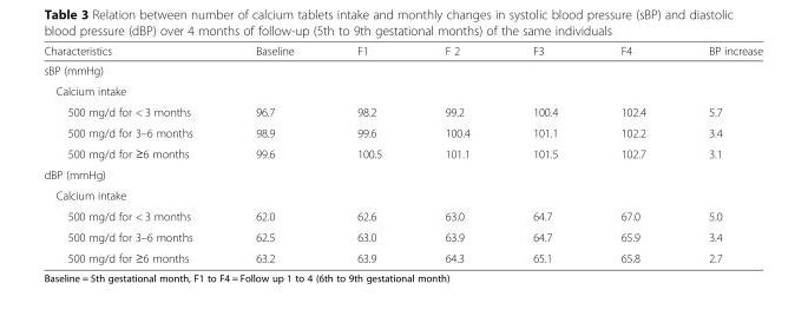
<table><thead><tr><td>Characteristics</td><td>Baseline</td><td>F1</td><td>F 2</td><td>F3</td><td>F4</td><td>BP increase</td></tr></thead><tbody><tr><td colspan="7">sBP (mmHg)</td></tr><tr><td colspan="7">Calcium intake</td></tr><tr><td>500 mg/d for &lt; 3 months</td><td>96.7</td><td>98.2</td><td>99.2</td><td>100.4</td><td>102.4</td><td>5.7</td></tr><tr><td>500 mg/d for 3–6 months</td><td>98.9</td><td>99.6</td><td>100.4</td><td>101.1</td><td>102.2</td><td>3.4</td></tr><tr><td>500 mg/d for ≥6 months</td><td>99.6</td><td>100.5</td><td>101.1</td><td>101.5</td><td>102.7</td><td>3.1</td></tr><tr><td colspan="7">dBP (mmHg)</td></tr><tr><td colspan="7">Calcium intake</td></tr><tr><td>500 mg/d for &lt; 3 months</td><td>62.0</td><td>62.6</td><td>63.0</td><td>64.7</td><td>67.0</td><td>5.0</td></tr><tr><td>500 mg/d for 3–6 months</td><td>62.5</td><td>63.0</td><td>63.9</td><td>64.7</td><td>65.9</td><td>3.4</td></tr><tr><td>500 mg/d for ≥6 months</td><td>63.2</td><td>63.9</td><td>64.3</td><td>65.1</td><td>65.8</td><td>2.7</td></tr></tbody></table>